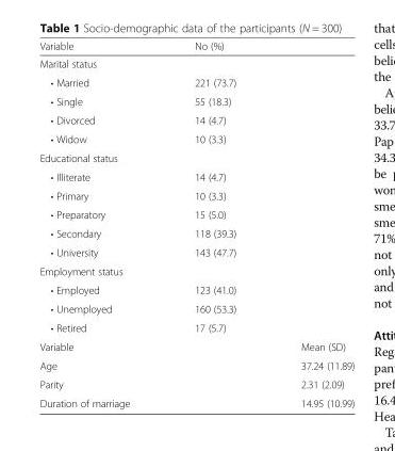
<table><thead><tr><td>Variable</td><td>No (%)</td><td></td></tr></thead><tbody><tr><td colspan="3">Marital status</td></tr><tr><td>• Married</td><td>221 (73.7)</td><td></td></tr><tr><td>• Single</td><td>55 (18.3)</td><td></td></tr><tr><td>• Divorced</td><td>14 (4.7)</td><td></td></tr><tr><td>• Widow</td><td>10 (3.3)</td><td></td></tr><tr><td colspan="3">Educational status</td></tr><tr><td>• Illiterate</td><td>14 (4.7)</td><td></td></tr><tr><td>• Primary</td><td>10 (3.3)</td><td></td></tr><tr><td>• Preparatory</td><td>15 (5.0)</td><td></td></tr><tr><td>• Secondary</td><td>118 (39.3)</td><td></td></tr><tr><td>• University</td><td>143 (47.7)</td><td></td></tr><tr><td colspan="3">Employment status</td></tr><tr><td>• Employed</td><td>123 (41.0)</td><td></td></tr><tr><td>• Unemployed</td><td>160 (53.3)</td><td></td></tr><tr><td>• Retired</td><td>17 (5.7)</td><td></td></tr><tr><td>Variable</td><td></td><td>Mean (SD)</td></tr><tr><td>Age</td><td></td><td>37.24 (11.89)</td></tr><tr><td>Parity</td><td></td><td>2.31 (2.09)</td></tr><tr><td>Duration of marriage</td><td></td><td>14.95 (10.99)</td></tr></tbody></table>